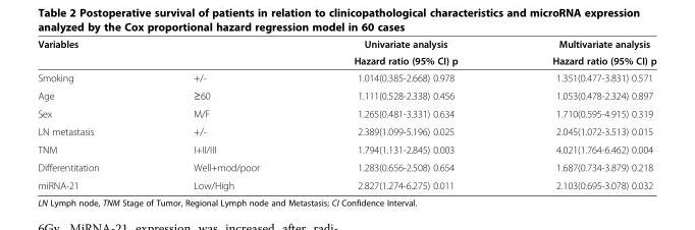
<table><thead><tr><td rowspan="2" colspan="2">Variables</td><td rowspan="3">Univariate analysis Hazard ratio (95% CI) p 1.014(0.385-2.668) 0.978</td><td rowspan="3">Multivariate analysis Hazard ratio (95% CI) p 1.351(0.477-3.831) 0.571</td></tr><tr></tr><tr><td>Smoking</td><td>+/-</td></tr></thead><tbody><tr><td>Age</td><td>≥60</td><td>1.111(0.528-2.338) 0.456</td><td>1.053(0.478-2.324) 0.897</td></tr><tr><td>Sex</td><td>M/F</td><td>1.265(0.481-3.331) 0.634</td><td>1.710(0.595-4.915) 0.319</td></tr><tr><td>LN metastasis</td><td>+/-</td><td>2.389(1.099-5.196) 0.025</td><td>2.045(1.072-3.513) 0.015</td></tr><tr><td>TNM</td><td>I+II/III</td><td>1.794(1.131-2.845) 0.003</td><td>4.021(1.764-6.462) 0.004</td></tr><tr><td>Differentitation</td><td>Well+mod/poor</td><td>1.283(0.656-2.508) 0.654</td><td>1.687(0.734-3.879) 0.218</td></tr><tr><td>miRNA-21</td><td>Low/High</td><td>2.827(1.274-6.275) 0.011</td><td>2.103(0.695-3.078) 0.032</td></tr></tbody></table>